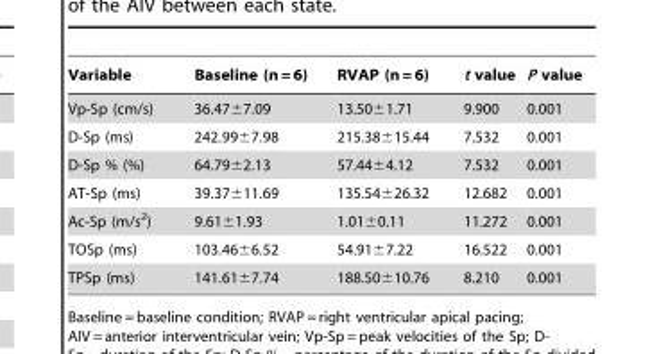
<table><thead><tr><td>Variable</td><td>Baseline (n = 6)</td><td>RVAP (n = 6)</td><td>t value</td><td>P value</td></tr></thead><tbody><tr><td>Vp-Sp (cm/s)</td><td>36.47±7.09</td><td>13.50±1.71</td><td>9.900</td><td>0.001</td></tr><tr><td>D-Sp (ms)</td><td>242.99±7.98</td><td>215.38±15.44</td><td>7.532</td><td>0.001</td></tr><tr><td>D-Sp % (%)</td><td>64.79±2.13</td><td>57.44±4.12</td><td>7.532</td><td>0.001</td></tr><tr><td>AT-Sp (ms)</td><td>39.37±11.69</td><td>135.54±26.32</td><td>12.682</td><td>0.001</td></tr><tr><td>Ac-Sp (m/s<sup>2</sup>)</td><td>9.61±1.93</td><td>1.01±0.11</td><td>11.272</td><td>0.001</td></tr><tr><td>TOSp (ms)</td><td>103.46±6.52</td><td>54.91±7.22</td><td>16.522</td><td>0.001</td></tr><tr><td>TPSp (ms)</td><td>141.61±7.74</td><td>188.50±10.76</td><td>8.210</td><td>0.001</td></tr></tbody></table>